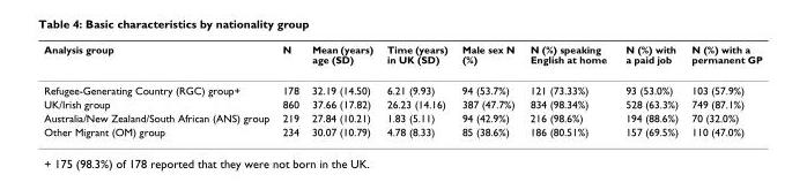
<table><thead><tr><td>Analysis group</td><td>N</td><td>Mean (years) age (SD)</td><td>Time (years) in UK (SD)</td><td>Male sex N (%)</td><td>N (%) speaking English at home</td><td>N (%) with a paid job</td><td>N (%) with a permanent GP</td></tr></thead><tbody><tr><td>Refugee-Generating Country (RGC) group+</td><td>178</td><td>32.19 (14.50)</td><td>6.21 (9.93)</td><td>94 (53.7%)</td><td>121 (73.33%)</td><td>93 (53.0%)</td><td>103 (57.9%)</td></tr><tr><td>UK/Irish group</td><td>860</td><td>37.66 (17.82)</td><td>26.23 (14.16)</td><td>387 (47.7%)</td><td>834 (98.34%)</td><td>528 (63.3%)</td><td>749 (87.1%)</td></tr><tr><td>Australia/New Zealand/South African (ANS) group</td><td>219</td><td>27.84 (10.21)</td><td>1.83 (5.11)</td><td>94 (42.9%)</td><td>216 (98.6%)</td><td>194 (88.6%)</td><td>70 (32.0%)</td></tr><tr><td>Other Migrant (OM) group</td><td>234</td><td>30.07 (10.79)</td><td>4.78 (8.33)</td><td>85 (38.6%)</td><td>186 (80.51%)</td><td>157 (69.5%)</td><td>110 (47.0%)</td></tr></tbody></table>